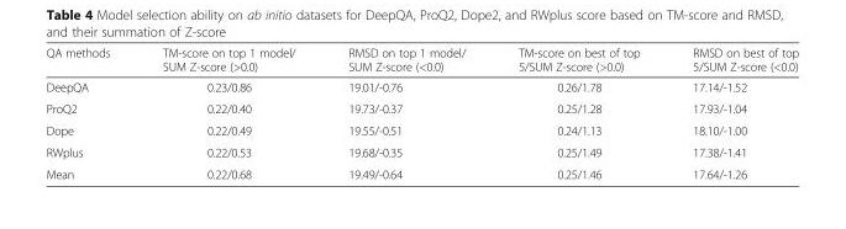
<table><thead><tr><td>QA methods</td><td>TM-score on top 1 model/ SUM Z-score (&gt;0.0)</td><td>RMSD on top 1 model/ SUM Z-score (&lt;0.0)</td><td>TM-score on best of top 5/SUM Z-score (&gt;0.0)</td><td>RMSD on best of top 5/SUM Z-score (&lt;0.0)</td></tr></thead><tbody><tr><td>DeepQA</td><td>0.23/0.86</td><td>19.01/-0.76</td><td>0.26/1.78</td><td>17.14/-1.52</td></tr><tr><td>ProQ2</td><td>0.22/0.40</td><td>19.73/-0.37</td><td>0.25/1.28</td><td>17.93/-1.04</td></tr><tr><td>Dope</td><td>0.22/0.49</td><td>19.55/-0.51</td><td>0.24/1.13</td><td>18.10/-1.00</td></tr><tr><td>RWplus</td><td>0.22/0.53</td><td>19.68/-0.35</td><td>0.25/1.49</td><td>17.38/-1.41</td></tr><tr><td>Mean</td><td>0.22/0.68</td><td>19.49/-0.64</td><td>0.25/1.46</td><td>17.64/-1.26</td></tr></tbody></table>